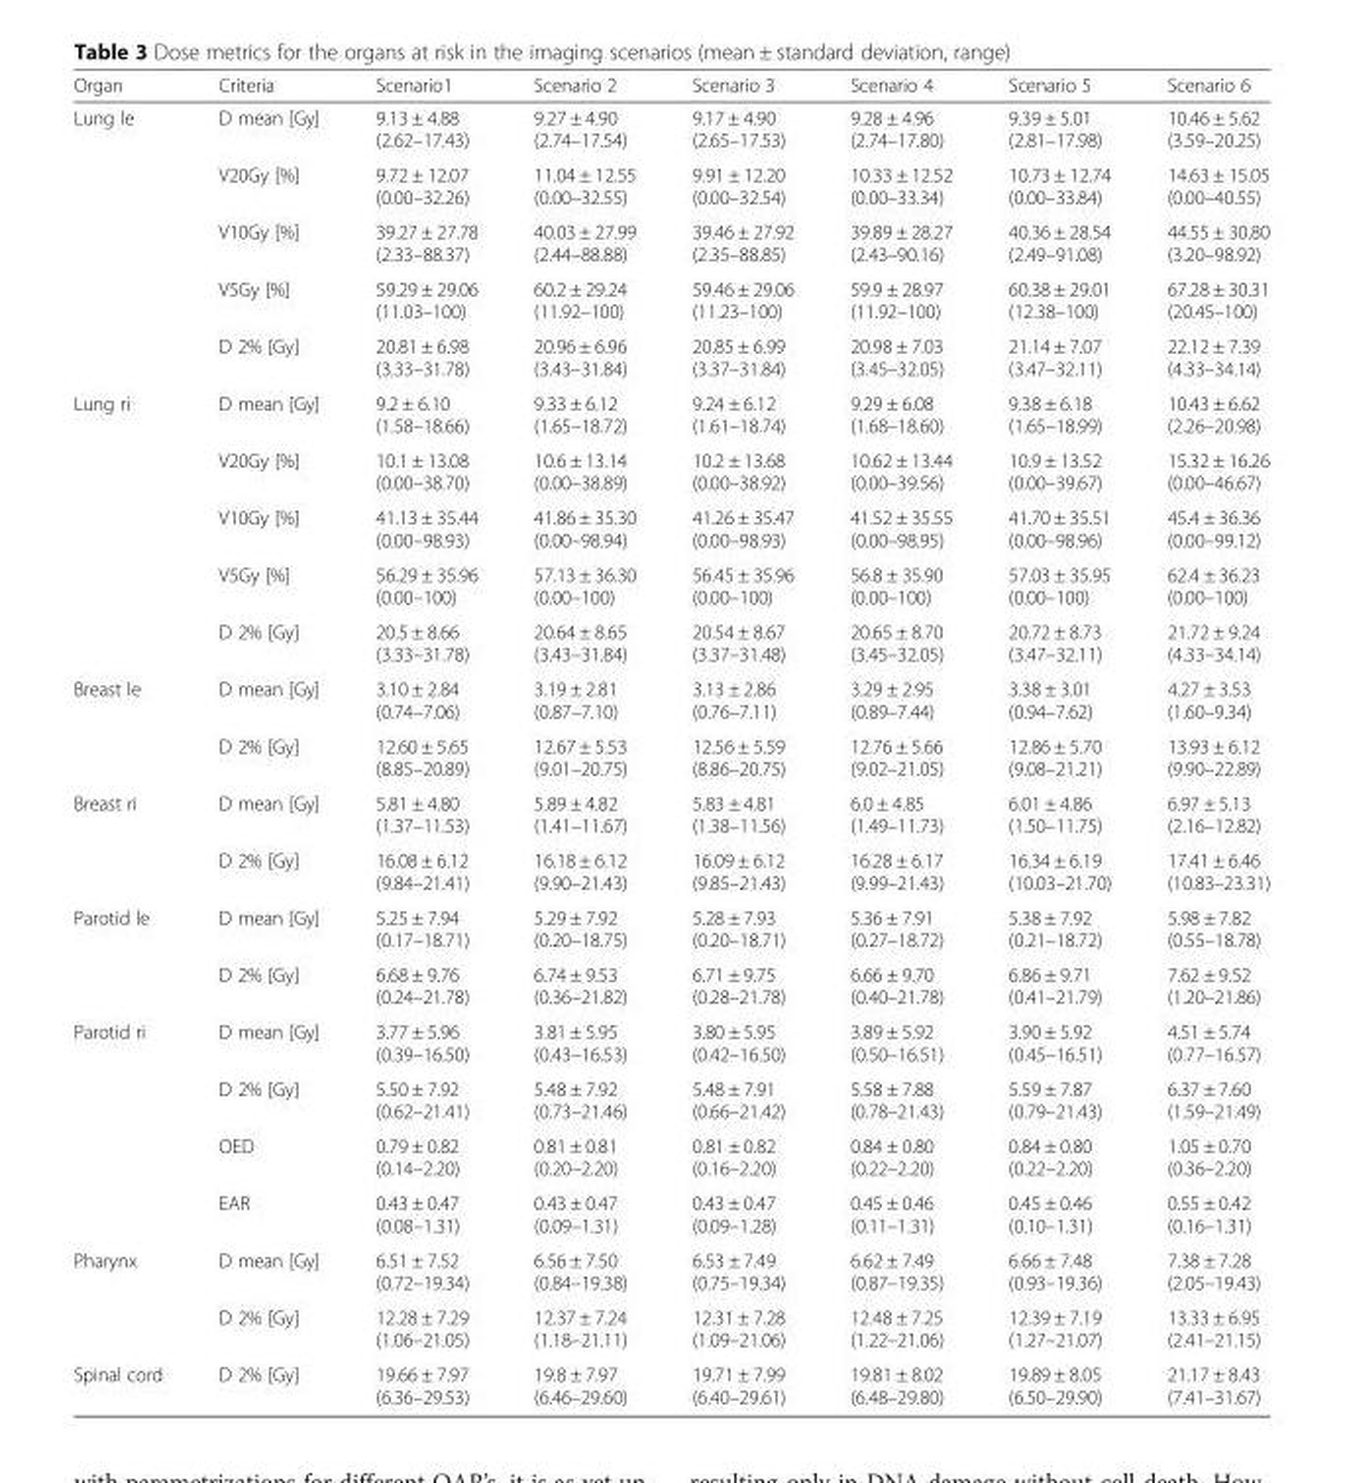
<table><thead><tr><td>Organ</td><td>Criteria</td><td>Scenario1</td><td>Scenario 2</td><td>Scenario 3</td><td>Scenario 4</td><td>Scenario 5</td><td>Scenario 6</td></tr></thead><tbody><tr><td rowspan="5">Lung le</td><td>D mean [Gy]</td><td>9.13 ± 4.88 (2.62–17.43)</td><td>9.27 ± 4.90 (2.74–17.54)</td><td>9.17 ± 4.90 (2.65–17.53)</td><td>9.28 ± 4.96 (2.74–17.80)</td><td>9.39 ± 5.01 (2.81–17.98)</td><td>10.46 ± 5.62 (3.59–20.25)</td></tr><tr><td>V20Gy [%]</td><td>9.72 ± 12.07 (0.00–32.26)</td><td>11.04 ± 12.55 (0.00–32.55)</td><td>9.91 ± 12.20 (0.00–32.54)</td><td>10.33 ± 12.52 (0.00–33.34)</td><td>10.73 ± 12.74 (0.00–33.84)</td><td>14.63 ± 15.05 (0.00–40.55)</td></tr><tr><td>V10Gy [%]</td><td>39.27 ± 27.78 (2.33–88.37)</td><td>40.03 ± 27.99 (2.44–88.88)</td><td>39.46 ± 27.92 (2.35–88.85)</td><td>39.89 ± 28.27 (2.43–90.16)</td><td>40.36 ± 28.54 (2.49–91.08)</td><td>44.55 ± 30.80 (3.20–98.92)</td></tr><tr><td>V5Gy [%]</td><td>59.29 ± 29.06 (11.03–100)</td><td>60.2 ± 29.24 (11.92–100)</td><td>59.46 ± 29.06 (11.23–100)</td><td>59.9 ± 28.97 (11.92–100)</td><td>60.38 ± 29.01 (12.38–100)</td><td>67.28 ± 30.31 (20.45–100)</td></tr><tr><td>D 2% [Gy]</td><td>20.81 ± 6.98 (3.33–31.78)</td><td>20.96 ± 6.96 (3.43–31.84)</td><td>20.85 ± 6.99 (3.37–31.84)</td><td>20.98 ± 7.03 (3.45–32.05)</td><td>21.14 ± 7.07 (3.47–32.11)</td><td>22.12 ± 7.39 (4.33–34.14)</td></tr><tr><td rowspan="5">Lung ri</td><td>D mean [Gy]</td><td>9.2 ± 6.10 (1.58–18.66)</td><td>9.33 ± 6.12 (1.65–18.72)</td><td>9.24 ± 6.12 (1.61–18.74)</td><td>9.29 ± 6.08 (1.68–18.60)</td><td>9.38 ± 6.18 (1.65–18.99)</td><td>10.43 ± 6.62 (2.26–20.98)</td></tr><tr><td>V20Gy [%]</td><td>10.1 ± 13.08 (0.00–38.70)</td><td>10.6 ± 13.14 (0.00–38.89)</td><td>10.2 ± 13.68 (0.00–38.92)</td><td>10.62 ± 13.44 (0.00–39.56)</td><td>10.9 ± 13.52 (0.00–39.67)</td><td>15.32 ± 16.26 (0.00–46.67)</td></tr><tr><td>V10Gy [%]</td><td>41.13 ± 35.44 (0.00–98.93)</td><td>41.86 ± 35.30 (0.00–98.94)</td><td>41.26 ± 35.47 (0.00–98.93)</td><td>41.52 ± 35.55 (0.00–98.95)</td><td>41.70 ± 35.51 (0.00–98.96)</td><td>45.4 ± 36.36 (0.00–99.12)</td></tr><tr><td>V5Gy [%]</td><td>56.29 ± 35.96 (0.00–100)</td><td>57.13 ± 36.30 (0.00–100)</td><td>56.45 ± 35.96 (0.00–100)</td><td>56.8 ± 35.90 (0.00–100)</td><td>57.03 ± 35.95 (0.00–100)</td><td>62.4 ± 36.23 (0.00–100)</td></tr><tr><td>D 2% [Gy]</td><td>20.5 ± 8.66 (3.33–31.78)</td><td>20.64 ± 8.65 (3.43–31.84)</td><td>20.54 ± 8.67 (3.37–31.48)</td><td>20.65 ± 8.70 (3.45–32.05)</td><td>20.72 ± 8.73 (3.47–32.11)</td><td>21.72 ± 9.24 (4.33–34.14)</td></tr><tr><td rowspan="2">Breast le</td><td>D mean [Gy]</td><td>3.10 ± 2.84 (0.74–7.06)</td><td>3.19 ± 2.81 (0.87–7.10)</td><td>3.13 ± 2.86 (0.76–7.11)</td><td>3.29 ± 2.95 (0.89–7.44)</td><td>3.38 ± 3.01 (0.94–7.62)</td><td>4.27 ± 3.53 (1.60–9.34)</td></tr><tr><td>D 2% [Gy]</td><td>12.60 ± 5.65 (8.85–20.89)</td><td>12.67 ± 5.53 (9.01–20.75)</td><td>12.56 ± 5.59 (8.86–20.75)</td><td>12.76 ± 5.66 (9.02–21.05)</td><td>12.86 ± 5.70 (9.08–21.21)</td><td>13.93 ± 6.12 (9.90–22.89)</td></tr><tr><td rowspan="2">Breast ri</td><td>D mean [Gy]</td><td>5.81 ± 4.80 (1.37–11.53)</td><td>5.89 ± 4.82 (1.41–11.67)</td><td>5.83 ± 4.81 (1.38–11.56)</td><td>6.0 ± 4.85 (1.49–11.73)</td><td>6.01 ± 4.86 (1.50–11.75)</td><td>6.97 ± 5.13 (2.16–12.82)</td></tr><tr><td>D 2% [Gy]</td><td>16.08 ± 6.12 (9.84–21.41)</td><td>16.18 ± 6.12 (9.90–21.43)</td><td>16.09 ± 6.12 (9.85–21.43)</td><td>16.28 ± 6.17 (9.99–21.43)</td><td>16.34 ± 6.19 (10.03–21.70)</td><td>17.41 ± 6.46 (10.83–23.31)</td></tr><tr><td rowspan="2">Parotid le</td><td>D mean [Gy]</td><td>5.25 ± 7.94 (0.17–18.71)</td><td>5.29 ± 7.92 (0.20–18.75)</td><td>5.28 ± 7.93 (0.20–18.71)</td><td>5.36 ± 7.91 (0.27–18.72)</td><td>5.38 ± 7.92 (0.21–18.72)</td><td>5.98 ± 7.82 (0.55–18.78)</td></tr><tr><td>D 2% [Gy]</td><td>6.68 ± 9.76 (0.24–21.78)</td><td>6.74 ± 9.53 (0.36–21.82)</td><td>6.71 ± 9.75 (0.28–21.78)</td><td>6.66 ± 9.70 (0.40–21.78)</td><td>6.86 ± 9.71 (0.41–21.79)</td><td>7.62 ± 9.52 (1.20–21.86)</td></tr><tr><td rowspan="4">Parotid ri</td><td>D mean [Gy]</td><td>3.77 ± 5.96 (0.39–16.50)</td><td>3.81 ± 5.95 (0.43–16.53)</td><td>3.80 ± 5.95 (0.42–16.50)</td><td>3.89 ± 5.92 (0.50–16.51)</td><td>3.90 ± 5.92 (0.45–16.51)</td><td>4.51 ± 5.74 (0.77–16.57)</td></tr><tr><td>D 2% [Gy]</td><td>5.50 ± 7.92 (0.62–21.41)</td><td>5.48 ± 7.92 (0.73–21.46)</td><td>5.48 ± 7.91 (0.66–21.42)</td><td>5.58 ± 7.88 (0.78–21.43)</td><td>5.59 ± 7.87 (0.79–21.43)</td><td>6.37 ± 7.60 (1.59–21.49)</td></tr><tr><td>OED</td><td>0.79 ± 0.82 (0.14–2.20)</td><td>0.81 ± 0.81 (0.20–2.20)</td><td>0.81 ± 0.82 (0.16–2.20)</td><td>0.84 ± 0.80 (0.22–2.20)</td><td>0.84 ± 0.80 (0.22–2.20)</td><td>1.05 ± 0.70 (0.36–2.20)</td></tr><tr><td>EAR</td><td>0.43 ± 0.47 (0.08–1.31)</td><td>0.43 ± 0.47 (0.09–1.31)</td><td>0.43 ± 0.47 (0.09–1.28)</td><td>0.45 ± 0.46 (0.11–1.31)</td><td>0.45 ± 0.46 (0.10–1.31)</td><td>0.55 ± 0.42 (0.16–1.31)</td></tr><tr><td rowspan="2">Pharynx</td><td>D mean [Gy]</td><td>6.51 ± 7.52 (0.72–19.34)</td><td>6.56 ± 7.50 (0.84–19.38)</td><td>6.53 ± 7.49 (0.75–19.34)</td><td>6.62 ± 7.49 (0.87–19.35)</td><td>6.66 ± 7.48 (0.93–19.36)</td><td>7.38 ± 7.28 (2.05–19.43)</td></tr><tr><td>D 2% [Gy]</td><td>12.28 ± 7.29 (1.06–21.05)</td><td>12.37 ± 7.24 (1.18–21.11)</td><td>12.31 ± 7.28 (1.09–21.06)</td><td>12.48 ± 7.25 (1.22–21.06)</td><td>12.39 ± 7.19 (1.27–21.07)</td><td>13.33 ± 6.95 (2.41–21.15)</td></tr><tr><td>Spinal cord</td><td>D 2% [Gy]</td><td>19.66 ± 7.97 (6.36–29.53)</td><td>19.8 ± 7.97 (6.46–29.60)</td><td>19.71 ± 7.99 (6.40–29.61)</td><td>19.81 ± 8.02 (6.48–29.80)</td><td>19.89 ± 8.05 (6.50–29.90)</td><td>21.17 ± 8.43 (7.41–31.67)</td></tr></tbody></table>